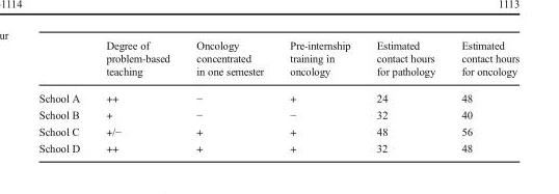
<table><thead><tr><td></td><td>Degree of problem-based teaching</td><td>Oncology concentrated in one semester</td><td>Pre-internship training in oncology</td><td>Estimated contact hours for pathology</td><td>Estimated contact hours for oncology</td></tr></thead><tbody><tr><td>School A</td><td>++</td><td>−</td><td>+</td><td>24</td><td>48</td></tr><tr><td>School B</td><td>+</td><td>−</td><td>−</td><td>32</td><td>40</td></tr><tr><td>School C</td><td>+/−</td><td>+</td><td>+</td><td>48</td><td>56</td></tr><tr><td>School D</td><td>++</td><td>+</td><td>+</td><td>32</td><td>48</td></tr></tbody></table>